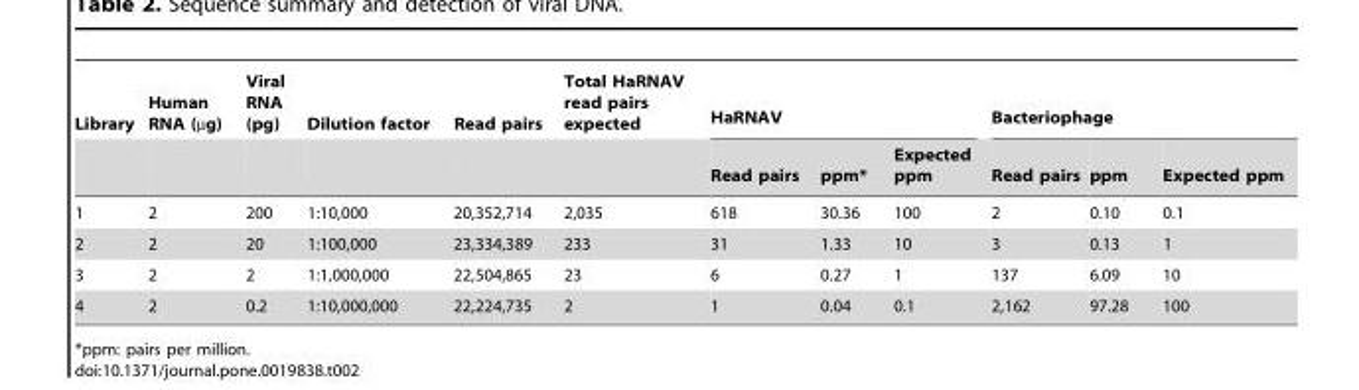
<table><thead><tr><td rowspan="2">Library</td><td rowspan="2">Human RNA (µg)</td><td rowspan="2">Viral RNA (pg)</td><td rowspan="2">Dilution factor</td><td rowspan="2">Read pairs</td><td rowspan="2">Total HaRNAV read pairs expected</td><td colspan="3">HaRNAV</td><td colspan="3">Bacteriophage</td></tr><tr><td>Read pairs</td><td>ppm*</td><td>Expected ppm</td><td>Read pairs</td><td>ppm</td><td>Expected ppm</td></tr></thead><tbody><tr><td>1</td><td>2</td><td>200</td><td>1:10,000</td><td>20,352,714</td><td>2,035</td><td>618</td><td>30.36</td><td>100</td><td>2</td><td>0.10</td><td>0.1</td></tr><tr><td>2</td><td>2</td><td>20</td><td>1:100,000</td><td>23,334,389</td><td>233</td><td>31</td><td>1.33</td><td>10</td><td>3</td><td>0.13</td><td>1</td></tr><tr><td>3</td><td>2</td><td>2</td><td>1:1,000,000</td><td>22,504,865</td><td>23</td><td>6</td><td>0.27</td><td>1</td><td>137</td><td>6.09</td><td>10</td></tr><tr><td>4</td><td>2</td><td>0.2</td><td>1:10,000,000</td><td>22,224,735</td><td>2</td><td>1</td><td>0.04</td><td>0.1</td><td>2,162</td><td>97.28</td><td>100</td></tr></tbody></table>